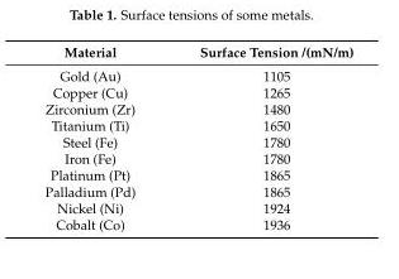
<table><thead><tr><td>Material</td><td>Surface Tension /(mN/m)</td></tr></thead><tbody><tr><td>Gold (Au)</td><td>1105</td></tr><tr><td>Copper (Cu)</td><td>1265</td></tr><tr><td>Zirconium (Zr)</td><td>1480</td></tr><tr><td>Titanium (Ti)</td><td>1650</td></tr><tr><td>Steel (Fe)</td><td>1780</td></tr><tr><td>Iron (Fe)</td><td>1780</td></tr><tr><td>Platinum (Pt)</td><td>1865</td></tr><tr><td>Palladium (Pd)</td><td>1865</td></tr><tr><td>Nickel (Ni)</td><td>1924</td></tr><tr><td>Cobalt (Co)</td><td>1936</td></tr></tbody></table>